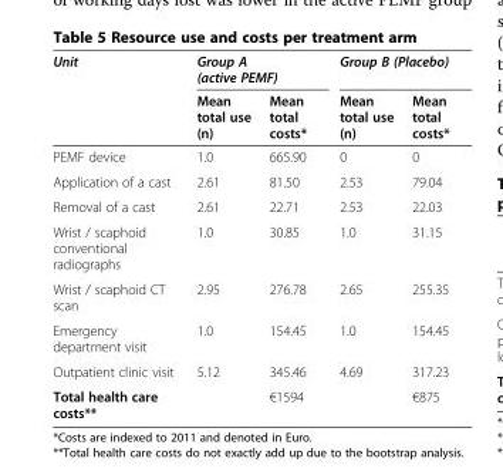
<table><thead><tr><td rowspan="2">Unit</td><td colspan="2">Group A (active PEMF)</td><td colspan="2">Group B (Placebo)</td></tr><tr><td>Mean total use (n)</td><td>Mean total costs*</td><td>Mean total use (n)</td><td>Mean total costs*</td></tr></thead><tbody><tr><td>PEMF device</td><td>1.0</td><td>665.90</td><td>0</td><td>0</td></tr><tr><td>Application of a cast</td><td>2.61</td><td>81.50</td><td>2.53</td><td>79.04</td></tr><tr><td>Removal of a cast</td><td>2.61</td><td>22.71</td><td>2.53</td><td>22.03</td></tr><tr><td>Wrist / scaphoid conventional radiographs</td><td>1.0</td><td>30.85</td><td>1.0</td><td>31.15</td></tr><tr><td>Wrist / scaphoid CT scan</td><td>2.95</td><td>276.78</td><td>2.65</td><td>255.35</td></tr><tr><td>Emergency department visit</td><td>1.0</td><td>154.45</td><td>1.0</td><td>154.45</td></tr><tr><td>Outpatient clinic visit</td><td>5.12</td><td>345.46</td><td>4.69</td><td>317.23</td></tr><tr><td>Total health care costs**</td><td></td><td>€1594</td><td></td><td>€875</td></tr></tbody></table>